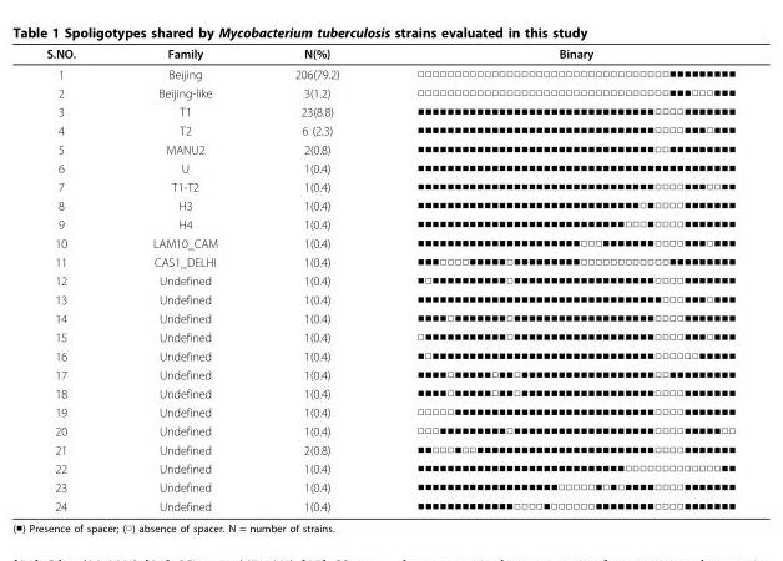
<table><thead><tr><td>S.NO.</td><td>Family</td><td>N(%)</td><td>Binary</td></tr></thead><tbody><tr><td>1</td><td>Beijing</td><td>206(79.2)</td><td>□□□□□□□□□□□□□□□□□□□□□□□□□□□□□□□□□□■■■■■■■■■</td></tr><tr><td>2</td><td>Beijing-like</td><td>3(1.2)</td><td>□□□□□□□□□□□□□□□□□□□□□□□□□□□□□□□□□□■■■□□□■■■</td></tr><tr><td>3</td><td>T1</td><td>23(8.8)</td><td>■■■■■■■■■■■■■■■■■■■■■■■■■■■■■■■■□□□□■■■■■■■</td></tr><tr><td>4</td><td>T2</td><td>6 (2.3)</td><td>■■■■■■■■■■■■■■■■■■■■■■■■■■■■■■■■□□□□■■■□■■■</td></tr><tr><td>5</td><td>MANU2</td><td>2(0.8)</td><td>■■■■■■■■■■■■■■■■■■■■■■■■■■■■■■■■□□■■■■■■■■■</td></tr><tr><td>6</td><td>U</td><td>1(0.4)</td><td>■■■■■■■■■■■■■■■■■■■■■■■■■■■■■■■■■■■■■■■■■■■</td></tr><tr><td>7</td><td>T1-T2</td><td>1(0.4)</td><td>■■■■■■■■■■■■■■■■■■■■■■■■■■■■■■■■□□□□■■■□□■■</td></tr><tr><td>8</td><td>H3</td><td>1(0.4)</td><td>■■■■■■■■■■■■■■■■■■■■■■■■■■■■■■□■□□□□■■■■■■■</td></tr><tr><td>9</td><td>H4</td><td>1(0.4)</td><td>■■■■■■■■■■■■■■■■■■■■■■■■■■■■□□□■□□□□■■■■■■■</td></tr><tr><td>10</td><td>LAM10_CAM</td><td>1(0.4)</td><td>■■■■■■■■■■■■■■■■■■■■■■□□□■■■■■■■□□□□■■■□■■■</td></tr><tr><td>11</td><td>CAS1_DELHI</td><td>1(0.4)</td><td>■■■□□□□■■■■■□■■■■■■■■■□□□□□□□□□□□□■■■■■■■■■</td></tr><tr><td>12</td><td>Undefined</td><td>1(0.4)</td><td>■□■■■■■■■■■■□■■■■■■■■■■■■■■■■■■■□□□□■■■■■■■</td></tr><tr><td>13</td><td>Undefined</td><td>1(0.4)</td><td>■■■■■■■■■■■■■■■■■■■■■■■■■■■■■■■■■□□□■■■□■■■</td></tr><tr><td>14</td><td>Undefined</td><td>1(0.4)</td><td>■■■■□■■■■■■■□■■■■■■■■■■■■■■■■■■■□□□□■■■■■■■</td></tr><tr><td>15</td><td>Undefined</td><td>1(0.4)</td><td>□■■■■■■■■■■■□■■■■■■■■■■■■■■■■■■■□□□□■■■□■■■</td></tr><tr><td>16</td><td>Undefined</td><td>1(0.4)</td><td>■□■■■■■■■■■■■■■■■■■■■■■■■■■■■■■■□□□□□□■■■■■</td></tr><tr><td>17</td><td>Undefined</td><td>1(0.4)</td><td>■■■■□■■■■■□■■□■■■■■■■■■■■■■■■■■■□□■■■■■■■■■</td></tr><tr><td>18</td><td>Undefined</td><td>1(0.4)</td><td>■■■■□■■■■■□■■□■■■■■■■■■■■■■■■■■■□□□□■■■■■■■</td></tr><tr><td>19</td><td>Undefined</td><td>1(0.4)</td><td>□□□□□■■■■■■■■■■■■■■■■■■■■■■■■■■■□□□□■■■■■■■</td></tr><tr><td>20</td><td>Undefined</td><td>1(0.4)</td><td>□□□■■■■■■■■■□■■■■■■■■■■■■■■■■■■■□□□□■■■■■□□</td></tr><tr><td>21</td><td>Undefined</td><td>2(0.8)</td><td>■■□□□■□□■■■■■■■■■■■■■■■■■■■■■■■■□□□□■■■■■■■</td></tr><tr><td>22</td><td>Undefined</td><td>1(0.4)</td><td>■■■■■■■■■■■■■■■■■■■■■■■■■■■■□□□□□□□□□□□□□■■</td></tr><tr><td>23</td><td>Undefined</td><td>1(0.4)</td><td>■■■■■■■■■■■■■■■■■■■□□□□□■□■□■■■■□□□□■■■■■■■</td></tr><tr><td>24</td><td>Undefined</td><td>1(0.4)</td><td>■■■■■■■■■■■■■□□□□■□□□□□□■■■■■■■■□□□□■■■■■■■</td></tr></tbody></table>